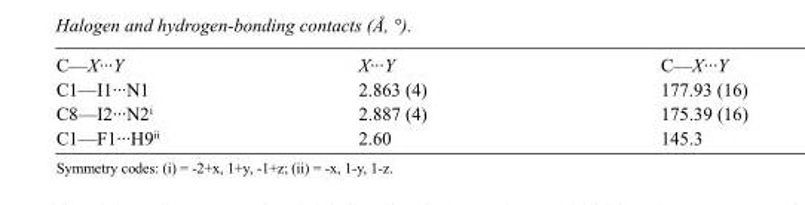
<table><tbody><tr><td>C—X···Y</td><td>X···Y</td><td>C—X···Y</td></tr><tr><td>C1—I1···N1</td><td>2.863 (4)</td><td>177.93 (16)</td></tr><tr><td>C8—I2···N2<sup>i</sup></td><td>2.887 (4)</td><td>175.39 (16)</td></tr><tr><td>C1—F1···H9<sup>ii</sup></td><td>2.60</td><td>145.3</td></tr></tbody></table>